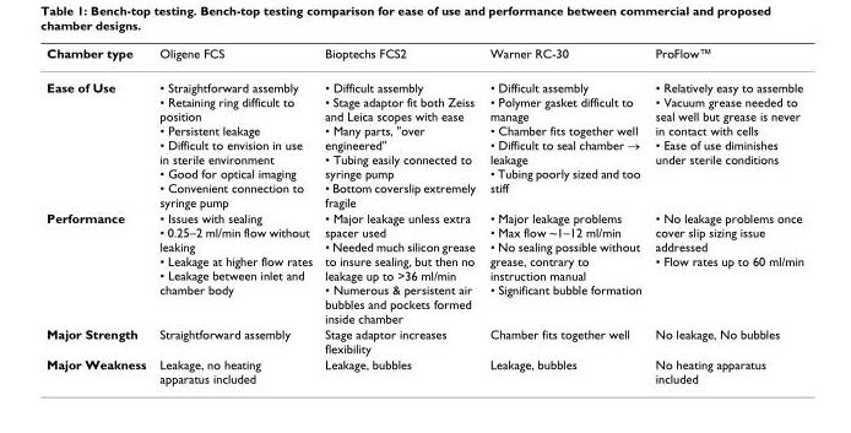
<table><thead><tr><td>Chamber type</td><td>Oligene FCS</td><td>Bioptechs FCS2</td><td>Warner RC-30</td><td>ProFlow™</td></tr></thead><tbody><tr><td>Ease of Use</td><td>• Straightforward assembly • Retaining ring difficult to position • Persistent leakage • Difficult to envision in use in sterile environment • Good for optical imaging • Convenient connection to syringe pump</td><td>• Difficult assembly • Stage adaptor fit both Zeiss and Leica scopes with ease • Many parts, &quot;over engineered&quot; • Tubing easily connected to syringe pump • Bottom coverslip extremely fragile</td><td>• Difficult assembly • Polymer gasket difficult to manage • Chamber fits together well • Difficult to seal chamber → leakage • Tubing poorly sized and too stiff</td><td>• Relatively easy to assemble • Vacuum grease needed to seal well but grease is never in contact with cells • Ease of use diminishes under sterile conditions</td></tr><tr><td>Performance</td><td>• Issues with sealing • 0.25–2 ml/min flow without leaking • Leakage at higher flow rates • Leakage between inlet and chamber body</td><td>• Major leakage unless extra spacer used • Needed much silicon grease to insure sealing, but then no leakage up to &gt;36 ml/min • Numerous &amp; persistent air bubbles and pockets formed inside chamber</td><td>• Major leakage problems • Max flow ~1–12 ml/min • No sealing possible without grease, contrary to instruction manual • Significant bubble formation</td><td>• No leakage problems once cover slip sizing issue addressed • Flow rates up to 60 ml/min</td></tr><tr><td>Major Strength</td><td>Straightforward assembly</td><td>Stage adaptor increases flexibility</td><td>Chamber fits together well</td><td>No leakage, No bubbles</td></tr><tr><td>Major Weakness</td><td>Leakage, no heating apparatus included</td><td>Leakage, bubbles</td><td>Leakage, bubbles</td><td>No heating apparatus included</td></tr></tbody></table>